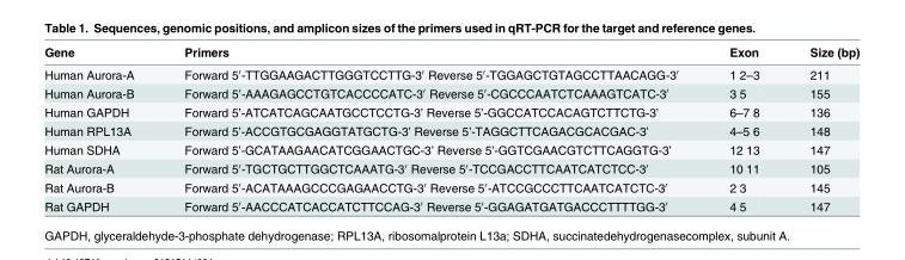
<table><thead><tr><td>Gene</td><td>Primers</td><td>Exon</td><td>Size (bp)</td></tr></thead><tbody><tr><td>Human Aurora-A</td><td>Forward 5′-TTGGAAGACTTGGGTCCTTG-3′ Reverse 5′-TGGAGCTGTAGCCTTAACAGG-3′</td><td>1 2–3</td><td>211</td></tr><tr><td>Human Aurora-B</td><td>Forward 5′-AAAGAGCCTGTCACCCCATC-3′ Reverse 5′-CGCCCAATCTCAAAGTCATC-3′</td><td>3 5</td><td>155</td></tr><tr><td>Human GAPDH</td><td>Forward 5’-ATCATCAGCAATGCCTCCTG-3’ Reverse 5’-GGCCATCCACAGTCTTCTG-3’</td><td>6–7 8</td><td>136</td></tr><tr><td>Human RPL13A</td><td>Forward 5’-ACCGTGCGAGGTATGCTG-3’ Reverse 5’-TAGGCTTCAGACGCACGAC-3’</td><td>4–5 6</td><td>148</td></tr><tr><td>Human SDHA</td><td>Forward 5’-GCATAAGAACATCGGAACTGC-3’ Reverse 5’-GGTCGAACGTCTTCAGGTG-3’</td><td>12 13</td><td>147</td></tr><tr><td>Rat Aurora-A</td><td>Forward 5′-TGCTGCTTGGCTCAAATG-3′ Reverse 5′-TCCGACCTTCAATCATCTCC-3′</td><td>10 11</td><td>105</td></tr><tr><td>Rat Aurora-B</td><td>Forward 5′-ACATAAAGCCCGAGAACCTG-3′ Reverse 5′-ATCCGCCCTTCAATCATCTC-3′</td><td>2 3</td><td>145</td></tr><tr><td>Rat GAPDH</td><td>Forward 5′-AACCCATCACCATCTTCCAG-3′ Reverse 5′-GGAGATGATGACCCTTTTGG-3′</td><td>4 5</td><td>147</td></tr></tbody></table>